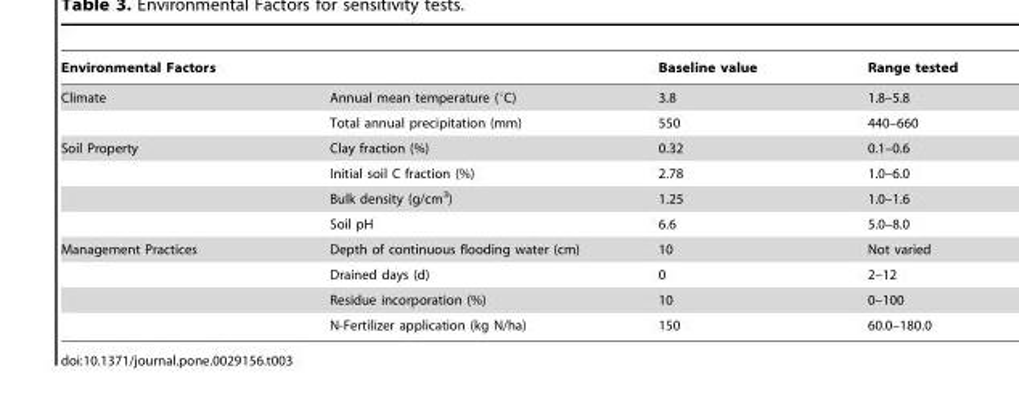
<table><thead><tr><td colspan="2">Environmental Factors</td><td rowspan="2">Baseline value 3.8</td><td rowspan="2">Range tested 1.8–5.8</td></tr><tr><td>Climate</td><td>Annual mean temperature (°C)</td></tr></thead><tbody><tr><td></td><td>Total annual precipitation (mm)</td><td>550</td><td>440–660</td></tr><tr><td rowspan="4">Soil Property</td><td>Clay fraction (%)</td><td>0.32</td><td>0.1–0.6</td></tr><tr><td>Initial soil C fraction (%)</td><td>2.78</td><td>1.0–6.0</td></tr><tr><td>Bulk density (g/cm<sup>3</sup>)</td><td>1.25</td><td>1.0–1.6</td></tr><tr><td>Soil pH</td><td>6.6</td><td>5.0–8.0</td></tr><tr><td rowspan="4">Management Practices</td><td>Depth of continuous flooding water (cm)</td><td>10</td><td>Not varied</td></tr><tr><td>Drained days (d)</td><td>0</td><td>2–12</td></tr><tr><td>Residue incorporation (%)</td><td>10</td><td>0–100</td></tr><tr><td>N-Fertilizer application (kg N/ha)</td><td>150</td><td>60.0–180.0</td></tr></tbody></table>